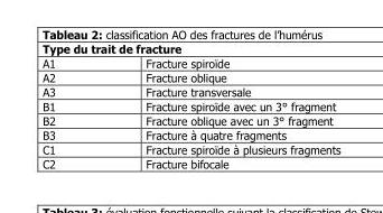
<table><thead><tr><td colspan="2">Type du trait de fracture</td></tr><tr><td>A1</td><td>Fracture spiroïde</td></tr></thead><tbody><tr><td>A2</td><td>Fracture oblique</td></tr><tr><td>A3</td><td>Fracture transversale</td></tr><tr><td>B1</td><td>Fracture spiroïde avec un 3° fragment</td></tr><tr><td>B2</td><td>Fracture oblique avec un 3° fragment</td></tr><tr><td>B3</td><td>Fracture à quatre fragments</td></tr><tr><td>C1</td><td>Fracture spiroïde à plusieurs fragments</td></tr><tr><td>C2</td><td>Fracture bifocale</td></tr></tbody></table>